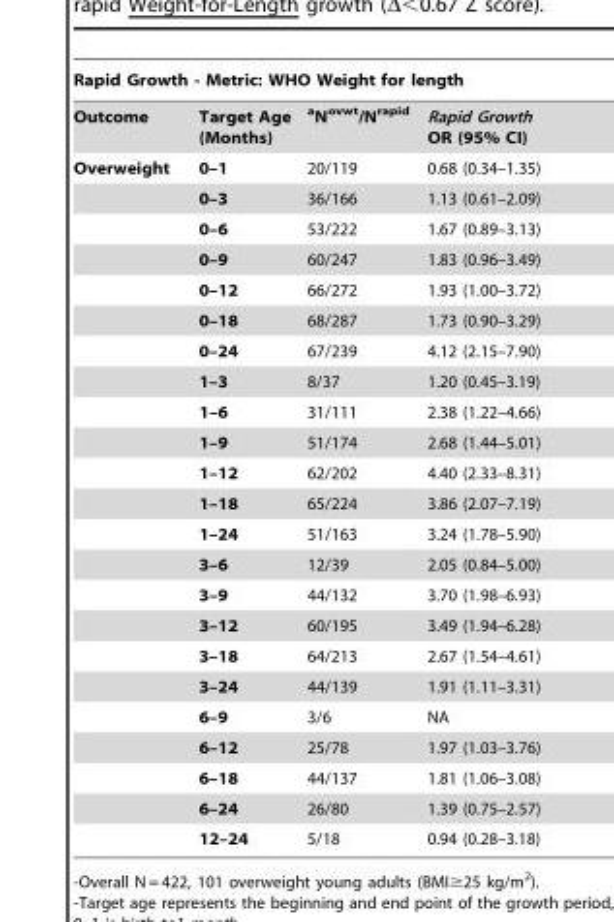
<table><thead><tr><td colspan="4">Rapid Growth - Metric: WHO Weight for length</td></tr><tr><td>Outcome</td><td>Target Age (Months)</td><td><sup>a</sup>N<sup>ovwt</sup>/N<sup>rapid</sup></td><td>Rapid Growth OR (95% CI)</td></tr></thead><tbody><tr><td rowspan="23">Overweight</td><td>0–1</td><td>20/119</td><td>0.68 (0.34–1.35)</td></tr><tr><td>0–3</td><td>36/166</td><td>1.13 (0.61–2.09)</td></tr><tr><td>0–6</td><td>53/222</td><td>1.67 (0.89–3.13)</td></tr><tr><td>0–9</td><td>60/247</td><td>1.83 (0.96–3.49)</td></tr><tr><td>0–12</td><td>66/272</td><td>1.93 (1.00–3.72)</td></tr><tr><td>0–18</td><td>68/287</td><td>1.73 (0.90–3.29)</td></tr><tr><td>0–24</td><td>67/239</td><td>4.12 (2.15–7.90)</td></tr><tr><td>1–3</td><td>8/37</td><td>1.20 (0.45–3.19)</td></tr><tr><td>1–6</td><td>31/111</td><td>2.38 (1.22–4.66)</td></tr><tr><td>1–9</td><td>51/174</td><td>2.68 (1.44–5.01)</td></tr><tr><td>1–12</td><td>62/202</td><td>4.40 (2.33–8.31)</td></tr><tr><td>1–18</td><td>65/224</td><td>3.86 (2.07–7.19)</td></tr><tr><td>1–24</td><td>51/163</td><td>3.24 (1.78–5.90)</td></tr><tr><td>3–6</td><td>12/39</td><td>2.05 (0.84–5.00)</td></tr><tr><td>3–9</td><td>44/132</td><td>3.70 (1.98–6.93)</td></tr><tr><td>3–12</td><td>60/195</td><td>3.49 (1.94–6.28)</td></tr><tr><td>3–18</td><td>64/213</td><td>2.67 (1.54–4.61)</td></tr><tr><td>3–24</td><td>44/139</td><td>1.91 (1.11–3.31)</td></tr><tr><td>6–9</td><td>3/6</td><td>NA</td></tr><tr><td>6–12</td><td>25/78</td><td>1.97 (1.03–3.76)</td></tr><tr><td>6–18</td><td>44/137</td><td>1.81 (1.06–3.08)</td></tr><tr><td>6–24</td><td>26/80</td><td>1.39 (0.75–2.57)</td></tr><tr><td>12–24</td><td>5/18</td><td>0.94 (0.28–3.18)</td></tr></tbody></table>